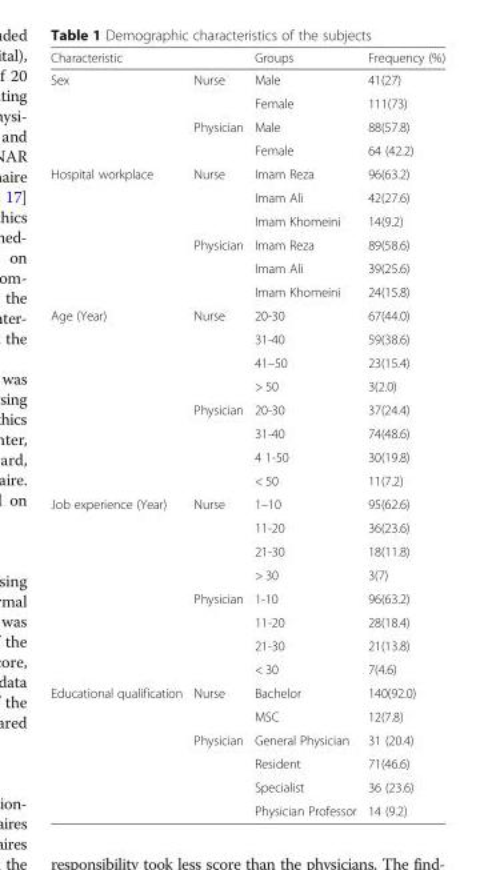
<table><thead><tr><td>Characteristic</td><td></td><td>Groups</td><td>Frequency (%)</td></tr></thead><tbody><tr><td rowspan="4">Sex</td><td rowspan="2">Nurse</td><td>Male</td><td>41(27)</td></tr><tr><td>Female</td><td>111(73)</td></tr><tr><td rowspan="2">Physician</td><td>Male</td><td>88(57.8)</td></tr><tr><td>Female</td><td>64 (42.2)</td></tr><tr><td rowspan="6">Hospital workplace</td><td rowspan="3">Nurse</td><td>Imam Reza</td><td>96(63.2)</td></tr><tr><td>Imam Ali</td><td>42(27.6)</td></tr><tr><td>Imam Khomeini</td><td>14(9.2)</td></tr><tr><td rowspan="3">Physician</td><td>Imam Reza</td><td>89(58.6)</td></tr><tr><td>Imam Ali</td><td>39(25.6)</td></tr><tr><td>Imam Khomeini</td><td>24(15.8)</td></tr><tr><td rowspan="8">Age (Year)</td><td rowspan="4">Nurse</td><td>20-30</td><td>67(44.0)</td></tr><tr><td>31-40</td><td>59(38.6)</td></tr><tr><td>41–50</td><td>23(15.4)</td></tr><tr><td>&gt; 50</td><td>3(2.0)</td></tr><tr><td rowspan="4">Physician</td><td>20-30</td><td>37(24.4)</td></tr><tr><td>31-40</td><td>74(48.6)</td></tr><tr><td>4 1-50</td><td>30(19.8)</td></tr><tr><td>&lt; 50</td><td>11(7.2)</td></tr><tr><td rowspan="8">Job experience (Year)</td><td rowspan="4">Nurse</td><td>1–10</td><td>95(62.6)</td></tr><tr><td>11-20</td><td>36(23.6)</td></tr><tr><td>21-30</td><td>18(11.8)</td></tr><tr><td>&gt; 30</td><td>3(7)</td></tr><tr><td rowspan="4">Physician</td><td>1-10</td><td>96(63.2)</td></tr><tr><td>11-20</td><td>28(18.4)</td></tr><tr><td>21-30</td><td>21(13.8)</td></tr><tr><td>&lt; 30</td><td>7(4.6)</td></tr><tr><td rowspan="6">Educational qualification</td><td rowspan="2">Nurse</td><td>Bachelor</td><td>140(92.0)</td></tr><tr><td>MSC</td><td>12(7.8)</td></tr><tr><td rowspan="4">Physician</td><td>General Physician</td><td>31 (20.4)</td></tr><tr><td>Resident</td><td>71(46.6)</td></tr><tr><td>Specialist</td><td>36 (23.6)</td></tr><tr><td>Physician Professor</td><td>14 (9.2)</td></tr></tbody></table>